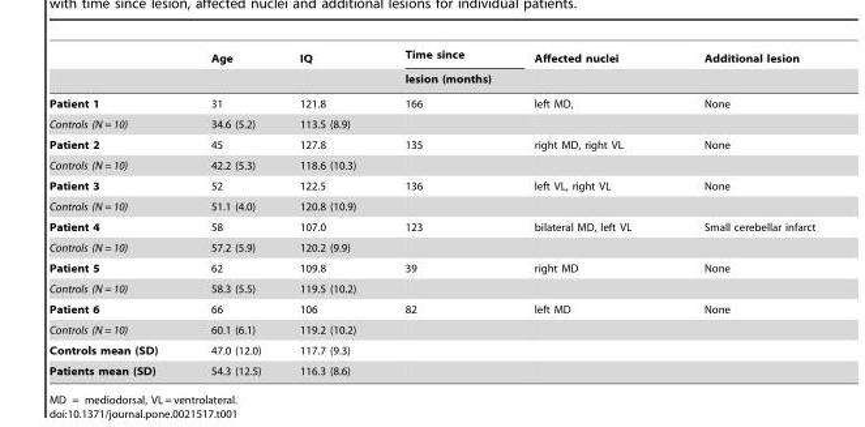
<table><thead><tr><td rowspan="2"></td><td rowspan="2">Age</td><td rowspan="2">IQ</td><td rowspan="2">Time since lesion (months)</td><td rowspan="2">Affected nuclei</td><td rowspan="2">Additional lesion</td></tr><tr></tr></thead><tbody><tr><td>Patient 1</td><td>31</td><td>121.8</td><td>166</td><td>left MD,</td><td>None</td></tr><tr><td>Controls (N = 10)</td><td>34.6 (5.2)</td><td>113.5 (8.9)</td><td></td><td></td><td></td></tr><tr><td>Patient 2</td><td>45</td><td>127.8</td><td>135</td><td>right MD, right VL</td><td>None</td></tr><tr><td>Controls (N = 10)</td><td>42.2 (5.3)</td><td>118.6 (10.3)</td><td></td><td></td><td></td></tr><tr><td>Patient 3</td><td>52</td><td>122.5</td><td>136</td><td>left VL, right VL</td><td>None</td></tr><tr><td>Controls (N = 10)</td><td>51.1 (4.0)</td><td>120.8 (10.9)</td><td></td><td></td><td></td></tr><tr><td>Patient 4</td><td>58</td><td>107.0</td><td>123</td><td>bilateral MD, left VL</td><td>Small cerebellar infarct</td></tr><tr><td>Controls (N = 10)</td><td>57.2 (5.9)</td><td>120.2 (9.9)</td><td></td><td></td><td></td></tr><tr><td>Patient 5</td><td>62</td><td>109.8</td><td>39</td><td>right MD</td><td>None</td></tr><tr><td>Controls (N = 10)</td><td>58.3 (5.5)</td><td>119.5 (10.2)</td><td></td><td></td><td></td></tr><tr><td>Patient 6</td><td>66</td><td>106</td><td>82</td><td>left MD</td><td>None</td></tr><tr><td>Controls (N = 10)</td><td>60.1 (6.1)</td><td>119.2 (10.2)</td><td></td><td></td><td></td></tr><tr><td>Controls mean (SD)</td><td>47.0 (12.0)</td><td>117.7 (9.3)</td><td></td><td></td><td></td></tr><tr><td>Patients mean (SD)</td><td>54.3 (12.5)</td><td>116.3 (8.6)</td><td></td><td></td><td></td></tr></tbody></table>